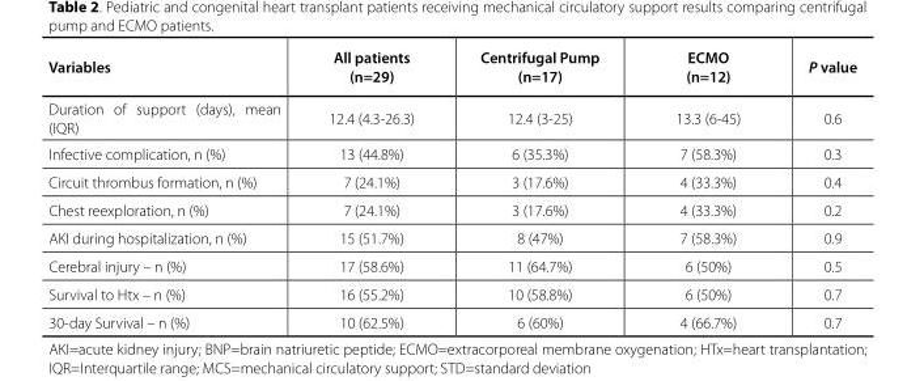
<table><thead><tr><td>Variables</td><td>All patients (n=29)</td><td>Centrifugal Pump (n=17)</td><td>ECMO (n=12)</td><td>P value</td></tr></thead><tbody><tr><td>Duration of support (days), mean (IQR)</td><td>12.4 (4.3-26.3)</td><td>12.4 (3-25)</td><td>13.3 (6-45)</td><td>0.6</td></tr><tr><td>Infective complication, n (%)</td><td>13 (44.8%)</td><td>6 (35.3%)</td><td>7 (58.3%)</td><td>0.3</td></tr><tr><td>Circuit thrombus formation, n (%)</td><td>7 (24.1%)</td><td>3 (17.6%)</td><td>4 (33.3%)</td><td>0.4</td></tr><tr><td>Chest reexploration, n (%)</td><td>7 (24.1%)</td><td>3 (17.6%)</td><td>4 (33.3%)</td><td>0.2</td></tr><tr><td>AKI during hospitalization, n (%)</td><td>15 (51.7%)</td><td>8 (47%)</td><td>7 (58.3%)</td><td>0.9</td></tr><tr><td>Cerebral injury – n (%)</td><td>17 (58.6%)</td><td>11 (64.7%)</td><td>6 (50%)</td><td>0.5</td></tr><tr><td>Survival to Htx – n (%)</td><td>16 (55.2%)</td><td>10 (58.8%)</td><td>6 (50%)</td><td>0.7</td></tr><tr><td>30-day Survival – n (%)</td><td>10 (62.5%)</td><td>6 (60%)</td><td>4 (66.7%)</td><td>0.7</td></tr></tbody></table>